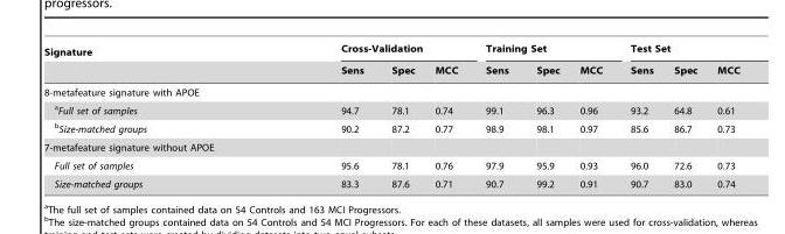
<table><thead><tr><td rowspan="2">Signature</td><td colspan="3">Cross-Validation</td><td colspan="3">Training Set</td><td colspan="3">Test Set</td></tr><tr><td>Sens</td><td>Spec</td><td>MCC</td><td>Sens</td><td>Spec</td><td>MCC</td><td>Sens</td><td>Spec</td><td>MCC</td></tr></thead><tbody><tr><td colspan="10">8-metafeature signature with APOE</td></tr><tr><td>aFull set of samples</td><td>94.7</td><td>78.1</td><td>0.74</td><td>99.1</td><td>96.3</td><td>0.96</td><td>93.2</td><td>64.8</td><td>0.61</td></tr><tr><td>bSize-matched groups</td><td>90.2</td><td>87.2</td><td>0.77</td><td>98.9</td><td>98.1</td><td>0.97</td><td>85.6</td><td>86.7</td><td>0.73</td></tr><tr><td colspan="10">7-metafeature signature without APOE</td></tr><tr><td>Full set of samples</td><td>95.6</td><td>78.1</td><td>0.76</td><td>97.9</td><td>95.9</td><td>0.93</td><td>96.0</td><td>72.6</td><td>0.73</td></tr><tr><td>Size-matched groups</td><td>83.3</td><td>87.6</td><td>0.71</td><td>90.7</td><td>99.2</td><td>0.91</td><td>90.7</td><td>83.0</td><td>0.74</td></tr></tbody></table>